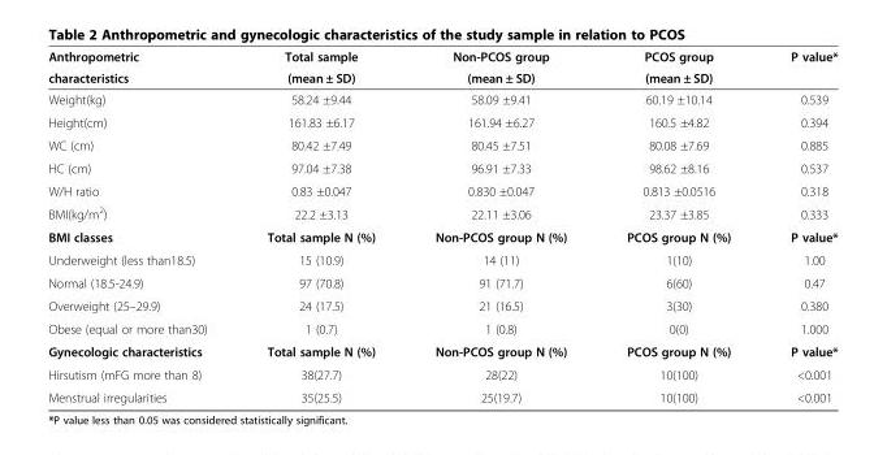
<table><thead><tr><td rowspan="2">Anthropometric characteristics</td><td rowspan="2">Total sample (mean ± SD)</td><td rowspan="2">Non-PCOS group (mean ± SD)</td><td rowspan="2">PCOS group (mean ± SD)</td><td rowspan="2">P value*</td></tr><tr></tr></thead><tbody><tr><td>Weight(kg)</td><td>58.24 ±9.44</td><td>58.09 ±9.41</td><td>60.19 ±10.14</td><td>0.539</td></tr><tr><td>Height(cm)</td><td>161.83 ±6.17</td><td>161.94 ±6.27</td><td>160.5 ±4.82</td><td>0.394</td></tr><tr><td>WC (cm)</td><td>80.42 ±7.49</td><td>80.45 ±7.51</td><td>80.08 ±7.69</td><td>0.885</td></tr><tr><td>HC (cm)</td><td>97.04 ±7.38</td><td>96.91 ±7.33</td><td>98.62 ±8.16</td><td>0.537</td></tr><tr><td>W/H ratio</td><td>0.83 ±0.047</td><td>0.830 ±0.047</td><td>0.813 ±0.0516</td><td>0.318</td></tr><tr><td>BMI(kg/m<sup>2</sup>)</td><td>22.2 ±3.13</td><td>22.11 ±3.06</td><td>23.37 ±3.85</td><td>0.333</td></tr><tr><td>BMI classes</td><td>Total sample N (%)</td><td>Non-PCOS group N (%)</td><td>PCOS group N (%)</td><td>P value*</td></tr><tr><td>Underweight (less than18.5)</td><td>15 (10.9)</td><td>14 (11)</td><td>1(10)</td><td>1.00</td></tr><tr><td>Normal (18.5-24.9)</td><td>97 (70.8)</td><td>91 (71.7)</td><td>6(60)</td><td>0.47</td></tr><tr><td>Overweight (25–29.9)</td><td>24 (17.5)</td><td>21 (16.5)</td><td>3(30)</td><td>0.380</td></tr><tr><td>Obese (equal or more than30)</td><td>1 (0.7)</td><td>1 (0.8)</td><td>0(0)</td><td>1.000</td></tr><tr><td>Gynecologic characteristics</td><td>Total sample N (%)</td><td>Non-PCOS group N (%)</td><td>PCOS group N (%)</td><td>P value*</td></tr><tr><td>Hirsutism (mFG more than 8)</td><td>38(27.7)</td><td>28(22)</td><td>10(100)</td><td>&lt;0.001</td></tr><tr><td>Menstrual irregularities</td><td>35(25.5)</td><td>25(19.7)</td><td>10(100)</td><td>&lt;0.001</td></tr></tbody></table>